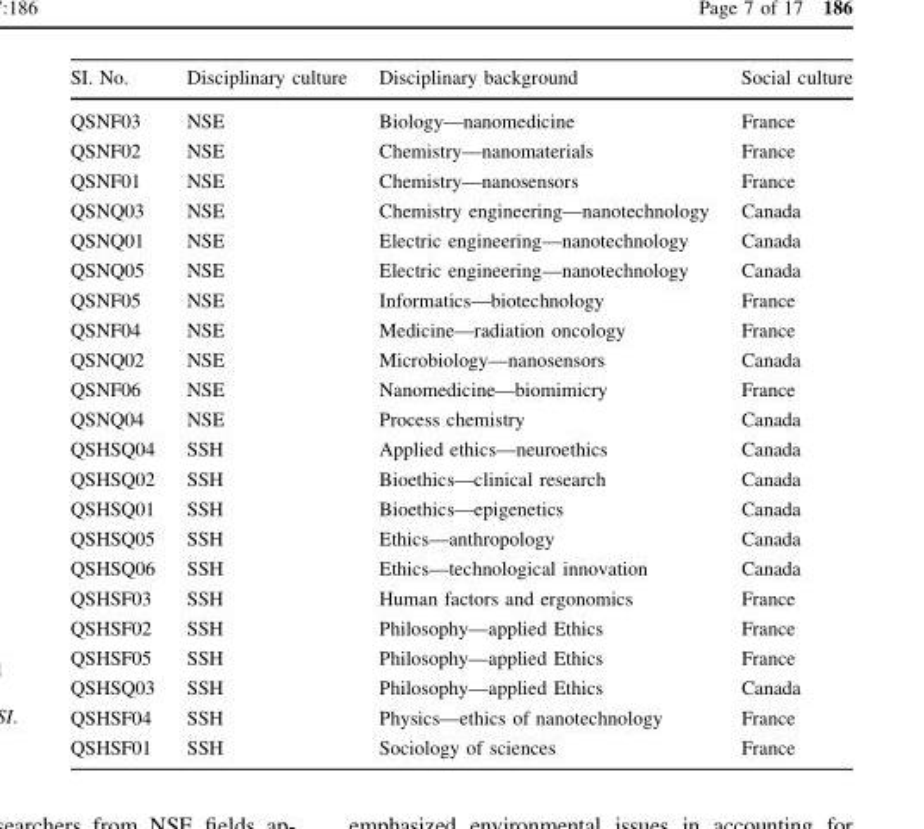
<table><thead><tr><td>SI. No.</td><td>Disciplinary culture</td><td>Disciplinary background</td><td>Social culture</td></tr></thead><tbody><tr><td>QSNF03</td><td>NSE</td><td>Biology—nanomedicine</td><td>France</td></tr><tr><td>QSNF02</td><td>NSE</td><td>Chemistry—nanomaterials</td><td>France</td></tr><tr><td>QSNF01</td><td>NSE</td><td>Chemistry—nanosensors</td><td>France</td></tr><tr><td>QSNQ03</td><td>NSE</td><td>Chemistry engineering—nanotechnology</td><td>Canada</td></tr><tr><td>QSNQ01</td><td>NSE</td><td>Electric engineering—nanotechnology</td><td>Canada</td></tr><tr><td>QSNQ05</td><td>NSE</td><td>Electric engineering—nanotechnology</td><td>Canada</td></tr><tr><td>QSNF05</td><td>NSE</td><td>Informatics—biotechnology</td><td>France</td></tr><tr><td>QSNF04</td><td>NSE</td><td>Medicine—radiation oncology</td><td>France</td></tr><tr><td>QSNQ02</td><td>NSE</td><td>Microbiology—nanosensors</td><td>Canada</td></tr><tr><td>QSNF06</td><td>NSE</td><td>Nanomedicine—biomimicry</td><td>France</td></tr><tr><td>QSNQ04</td><td>NSE</td><td>Process chemistry</td><td>Canada</td></tr><tr><td>QSHSQ04</td><td>SSH</td><td>Applied ethics—neuroethics</td><td>Canada</td></tr><tr><td>QSHSQ02</td><td>SSH</td><td>Bioethics—clinical research</td><td>Canada</td></tr><tr><td>QSHSQ01</td><td>SSH</td><td>Bioethics—epigenetics</td><td>Canada</td></tr><tr><td>QSHSQ05</td><td>SSH</td><td>Ethics—anthropology</td><td>Canada</td></tr><tr><td>QSHSQ06</td><td>SSH</td><td>Ethics—technological innovation</td><td>Canada</td></tr><tr><td>QSHSF03</td><td>SSH</td><td>Human factors and ergonomics</td><td>France</td></tr><tr><td>QSHSF02</td><td>SSH</td><td>Philosophy—applied Ethics</td><td>France</td></tr><tr><td>QSHSF05</td><td>SSH</td><td>Philosophy—applied Ethics</td><td>France</td></tr><tr><td>QSHSQ03</td><td>SSH</td><td>Philosophy—applied Ethics</td><td>Canada</td></tr><tr><td>QSHSF04</td><td>SSH</td><td>Physics—ethics of nanotechnology</td><td>France</td></tr><tr><td>QSHSF01</td><td>SSH</td><td>Sociology of sciences</td><td>France</td></tr></tbody></table>